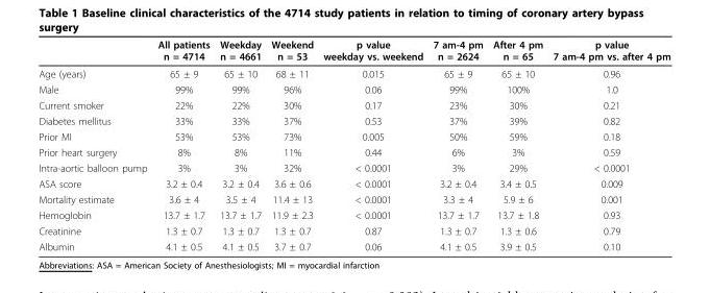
<table><thead><tr><td></td><td>All patients n = 4714</td><td>Weekday n = 4661</td><td>Weekend n = 53</td><td>p value weekday vs. weekend</td><td>7 am-4 pm n = 2624</td><td>After 4 pm n = 65</td><td>p value 7 am-4 pm vs. after 4 pm</td></tr></thead><tbody><tr><td>Age (years)</td><td>65 ± 9</td><td>65 ± 10</td><td>68 ± 11</td><td>0.015</td><td>65 ± 9</td><td>65 ± 10</td><td>0.96</td></tr><tr><td>Male</td><td>99%</td><td>99%</td><td>96%</td><td>0.06</td><td>99%</td><td>100%</td><td>1.0</td></tr><tr><td>Current smoker</td><td>22%</td><td>22%</td><td>30%</td><td>0.17</td><td>23%</td><td>30%</td><td>0.21</td></tr><tr><td>Diabetes mellitus</td><td>33%</td><td>33%</td><td>37%</td><td>0.53</td><td>37%</td><td>39%</td><td>0.82</td></tr><tr><td>Prior MI</td><td>53%</td><td>53%</td><td>73%</td><td>0.005</td><td>50%</td><td>59%</td><td>0.18</td></tr><tr><td>Prior heart surgery</td><td>8%</td><td>8%</td><td>11%</td><td>0.44</td><td>6%</td><td>3%</td><td>0.59</td></tr><tr><td>Intra-aortic balloon pump</td><td>3%</td><td>3%</td><td>32%</td><td>&lt; 0.0001</td><td>3%</td><td>29%</td><td>&lt; 0.0001</td></tr><tr><td>ASA score</td><td>3.2 ± 0.4</td><td>3.2 ± 0.4</td><td>3.6 ± 0.6</td><td>&lt; 0.0001</td><td>3.2 ± 0.4</td><td>3.4 ± 0.5</td><td>0.009</td></tr><tr><td>Mortality estimate</td><td>3.6 ± 4</td><td>3.5 ± 4</td><td>11.4 ± 13</td><td>&lt; 0.0001</td><td>3.3 ± 4</td><td>5.9 ± 6</td><td>0.001</td></tr><tr><td>Hemoglobin</td><td>13.7 ± 1.7</td><td>13.7 ± 1.7</td><td>11.9 ± 2.3</td><td>&lt; 0.0001</td><td>13.7 ± 1.7</td><td>13.7 ± 1.8</td><td>0.93</td></tr><tr><td>Creatinine</td><td>1.3 ± 0.7</td><td>1.3 ± 0.7</td><td>1.3 ± 0.7</td><td>0.87</td><td>1.3 ± 0.7</td><td>1.3 ± 0.6</td><td>0.79</td></tr><tr><td>Albumin</td><td>4.1 ± 0.5</td><td>4.1 ± 0.5</td><td>3.7 ± 0.7</td><td>0.06</td><td>4.1 ± 0.5</td><td>3.9 ± 0.5</td><td>0.10</td></tr></tbody></table>